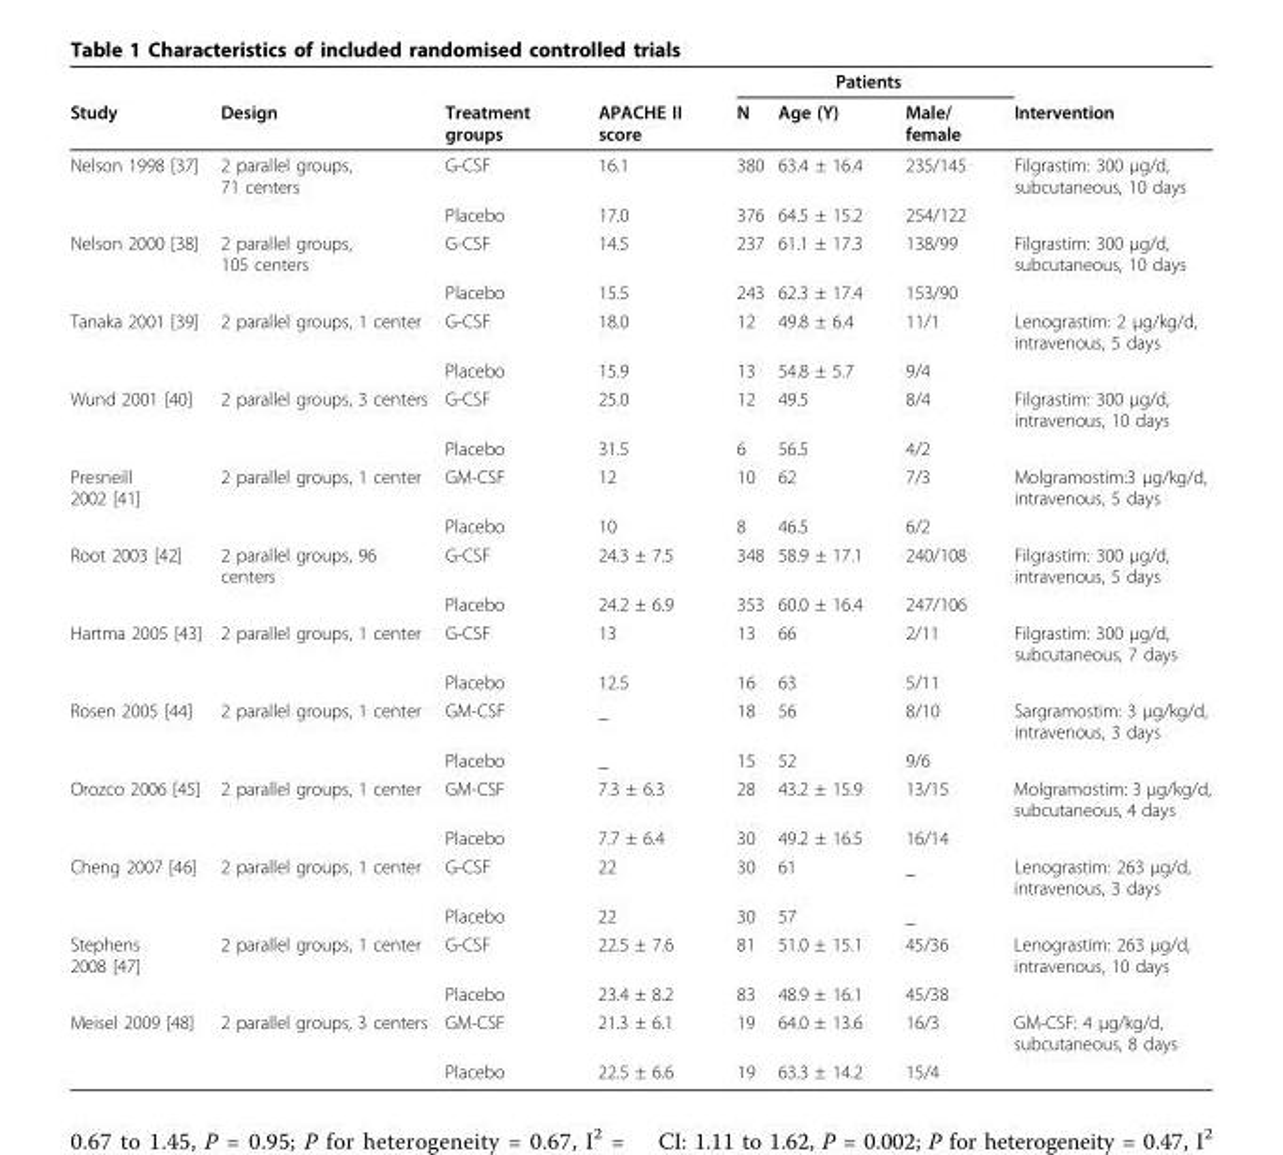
<table><thead><tr><td rowspan="2">Study</td><td rowspan="2">Design</td><td rowspan="2">Treatment groups</td><td rowspan="2">APACHE II score</td><td colspan="3">Patients</td><td rowspan="2">Intervention</td></tr><tr><td>N</td><td>Age (Y)</td><td>Male/ female</td></tr></thead><tbody><tr><td rowspan="2">Nelson 1998 [37]</td><td>2 parallel groups, 71 centers</td><td>G-CSF</td><td>16.1</td><td>380</td><td>63.4 ± 16.4</td><td>235/145</td><td>Filgrastim: 300 μg/d, subcutaneous, 10 days</td></tr><tr><td></td><td>Placebo</td><td>17.0</td><td>376</td><td>64.5 ± 15.2</td><td>254/122</td><td></td></tr><tr><td rowspan="2">Nelson 2000 [38]</td><td>2 parallel groups, 105 centers</td><td>G-CSF</td><td>14.5</td><td>237</td><td>61.1 ± 17.3</td><td>138/99</td><td>Filgrastim: 300 μg/d, subcutaneous, 10 days</td></tr><tr><td></td><td>Placebo</td><td>15.5</td><td>243</td><td>62.3 ± 17.4</td><td>153/90</td><td></td></tr><tr><td rowspan="2">Tanaka 2001 [39]</td><td>2 parallel groups, 1 center</td><td>G-CSF</td><td>18.0</td><td>12</td><td>49.8 ± 6.4</td><td>11/1</td><td>Lenograstim: 2 μg/kg/d, intravenous, 5 days</td></tr><tr><td></td><td>Placebo</td><td>15.9</td><td>13</td><td>54.8 ± 5.7</td><td>9/4</td><td></td></tr><tr><td rowspan="2">Wund 2001 [40]</td><td>2 parallel groups, 3 centers</td><td>G-CSF</td><td>25.0</td><td>12</td><td>49.5</td><td>8/4</td><td>Filgrastim: 300 μg/d, intravenous, 10 days</td></tr><tr><td></td><td>Placebo</td><td>31.5</td><td>6</td><td>56.5</td><td>4/2</td><td></td></tr><tr><td rowspan="2">Presneill 2002 [41]</td><td>2 parallel groups, 1 center</td><td>GM-CSF</td><td>12</td><td>10</td><td>62</td><td>7/3</td><td>Molgramostim:3 μg/kg/d, intravenous, 5 days</td></tr><tr><td></td><td>Placebo</td><td>10</td><td>8</td><td>46.5</td><td>6/2</td><td></td></tr><tr><td rowspan="2">Root 2003 [42]</td><td>2 parallel groups, 96 centers</td><td>G-CSF</td><td>24.3 ± 7.5</td><td>348</td><td>58.9 ± 17.1</td><td>240/108</td><td>Filgrastim: 300 μg/d, intravenous, 5 days</td></tr><tr><td></td><td>Placebo</td><td>24.2 ± 6.9</td><td>353</td><td>60.0 ± 16.4</td><td>247/106</td><td></td></tr><tr><td rowspan="2">Hartma 2005 [43]</td><td>2 parallel groups, 1 center</td><td>G-CSF</td><td>13</td><td>13</td><td>66</td><td>2/11</td><td>Filgrastim: 300 μg/d, subcutaneous, 7 days</td></tr><tr><td></td><td>Placebo</td><td>12.5</td><td>16</td><td>63</td><td>5/11</td><td></td></tr><tr><td rowspan="2">Rosen 2005 [44]</td><td>2 parallel groups, 1 center</td><td>GM-CSF</td><td>_</td><td>18</td><td>56</td><td>8/10</td><td>Sargramostim: 3 μg/kg/d, intravenous, 3 days</td></tr><tr><td></td><td>Placebo</td><td>_</td><td>15</td><td>52</td><td>9/6</td><td></td></tr><tr><td rowspan="2">Orozco 2006 [45]</td><td>2 parallel groups, 1 center</td><td>GM-CSF</td><td>7.3 ± 6.3</td><td>28</td><td>43.2 ± 15.9</td><td>13/15</td><td>Molgramostim: 3 μg/kg/d, subcutaneous, 4 days</td></tr><tr><td></td><td>Placebo</td><td>7.7 ± 6.4</td><td>30</td><td>49.2 ± 16.5</td><td>16/14</td><td></td></tr><tr><td rowspan="2">Cheng 2007 [46]</td><td>2 parallel groups, 1 center</td><td>G-CSF</td><td>22</td><td>30</td><td>61</td><td>_</td><td>Lenograstim: 263 μg/d, intravenous, 3 days</td></tr><tr><td></td><td>Placebo</td><td>22</td><td>30</td><td>57</td><td>_</td><td></td></tr><tr><td rowspan="2">Stephens 2008 [47]</td><td>2 parallel groups, 1 center</td><td>G-CSF</td><td>22.5 ± 7.6</td><td>81</td><td>51.0 ± 15.1</td><td>45/36</td><td>Lenograstim: 263 μg/d, intravenous, 10 days</td></tr><tr><td></td><td>Placebo</td><td>23.4 ± 8.2</td><td>83</td><td>48.9 ± 16.1</td><td>45/38</td><td></td></tr><tr><td rowspan="2">Meisel 2009 [48]</td><td>2 parallel groups, 3 centers</td><td>GM-CSF</td><td>21.3 ± 6.1</td><td>19</td><td>64.0 ± 13.6</td><td>16/3</td><td>GM-CSF: 4 μg/kg/d, subcutaneous, 8 days</td></tr><tr><td></td><td>Placebo</td><td>22.5 ± 6.6</td><td>19</td><td>63.3 ± 14.2</td><td>15/4</td><td></td></tr></tbody></table>